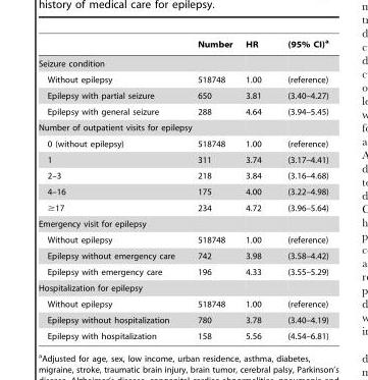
<table><thead><tr><td></td><td>Number</td><td>HR</td><td>(95% CI)<sup>a</sup></td></tr></thead><tbody><tr><td colspan="4">Seizure condition</td></tr><tr><td>Without epilepsy</td><td>518748</td><td>1.00</td><td>(reference)</td></tr><tr><td>Epilepsy with partial seizure</td><td>650</td><td>3.81</td><td>(3.40–4.27)</td></tr><tr><td>Epilepsy with general seizure</td><td>288</td><td>4.64</td><td>(3.94–5.45)</td></tr><tr><td colspan="4">Number of outpatient visits for epilepsy</td></tr><tr><td>0 (without epilepsy)</td><td>518748</td><td>1.00</td><td>(reference)</td></tr><tr><td>1</td><td>311</td><td>3.74</td><td>(3.17–4.41)</td></tr><tr><td>2–3</td><td>218</td><td>3.84</td><td>(3.16–4.68)</td></tr><tr><td>4–16</td><td>175</td><td>4.00</td><td>(3.22–4.98)</td></tr><tr><td>≥17</td><td>234</td><td>4.72</td><td>(3.96–5.64)</td></tr><tr><td colspan="4">Emergency visit for epilepsy</td></tr><tr><td>Without epilepsy</td><td>518748</td><td>1.00</td><td>(reference)</td></tr><tr><td>Epilepsy without emergency care</td><td>742</td><td>3.98</td><td>(3.58–4.42)</td></tr><tr><td>Epilepsy with emergency care</td><td>196</td><td>4.33</td><td>(3.55–5.29)</td></tr><tr><td colspan="4">Hospitalization for epilepsy</td></tr><tr><td>Without epilepsy</td><td>518748</td><td>1.00</td><td>(reference)</td></tr><tr><td>Epilepsy without hospitalization</td><td>780</td><td>3.78</td><td>(3.40–4.19)</td></tr><tr><td>Epilepsy with hospitalization</td><td>158</td><td>5.56</td><td>(4.54–6.81)</td></tr></tbody></table>